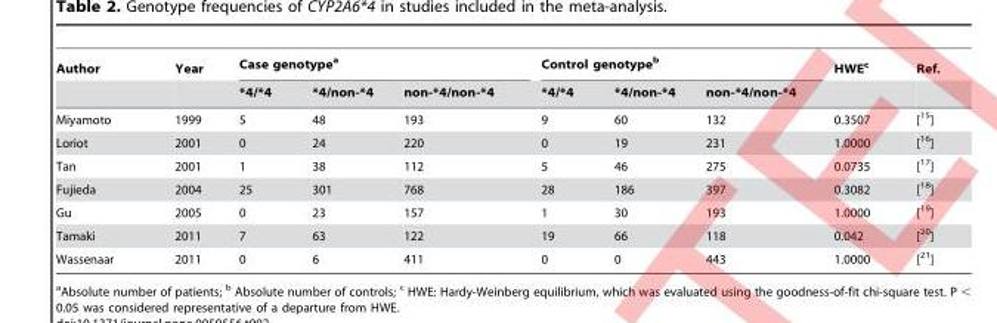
<table><thead><tr><td rowspan="2">Author</td><td rowspan="2">Year</td><td colspan="3">Case genotypea</td><td colspan="3">Control genotypeb</td><td rowspan="2">HWEc</td><td rowspan="2">Ref.</td></tr><tr><td>*4/*4</td><td>*4/non-*4</td><td>non-*4/non-*4</td><td>*4/*4</td><td>*4/non-*4</td><td>non-*4/non-*4</td></tr></thead><tbody><tr><td>Miyamoto</td><td>1999</td><td>5</td><td>48</td><td>193</td><td>9</td><td>60</td><td>132</td><td>0.3507</td><td>[15]</td></tr><tr><td>Loriot</td><td>2001</td><td>0</td><td>24</td><td>220</td><td>0</td><td>19</td><td>231</td><td>1.0000</td><td>[16]</td></tr><tr><td>Tan</td><td>2001</td><td>1</td><td>38</td><td>112</td><td>5</td><td>46</td><td>275</td><td>0.0735</td><td>[17]</td></tr><tr><td>Fujieda</td><td>2004</td><td>25</td><td>301</td><td>768</td><td>28</td><td>186</td><td>397</td><td>0.3082</td><td>[18]</td></tr><tr><td>Gu</td><td>2005</td><td>0</td><td>23</td><td>157</td><td>1</td><td>30</td><td>193</td><td>1.0000</td><td>[19]</td></tr><tr><td>Tamaki</td><td>2011</td><td>7</td><td>63</td><td>122</td><td>19</td><td>66</td><td>118</td><td>0.042</td><td>[20]</td></tr><tr><td>Wassenaar</td><td>2011</td><td>0</td><td>6</td><td>411</td><td>0</td><td>0</td><td>443</td><td>1.0000</td><td>[21]</td></tr></tbody></table>